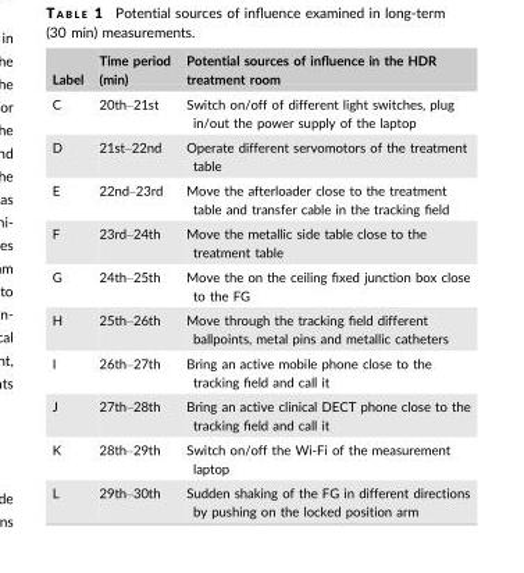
<table><thead><tr><td>Label</td><td>Time period (min)</td><td>Potential sources of influence in the HDR treatment room</td></tr></thead><tbody><tr><td>C</td><td>20th–21st</td><td>Switch on/off of different light switches, plug in/out the power supply of the laptop</td></tr><tr><td>D</td><td>21st–22nd</td><td>Operate different servomotors of the treatment table</td></tr><tr><td>E</td><td>22nd–23rd</td><td>Move the afterloader close to the treatment table and transfer cable in the tracking field</td></tr><tr><td>F</td><td>23rd–24th</td><td>Move the metallic side table close to the treatment table</td></tr><tr><td>G</td><td>24th–25th</td><td>Move the on the ceiling fixed junction box close to the FG</td></tr><tr><td>H</td><td>25th–26th</td><td>Move through the tracking field different ballpoints, metal pins and metallic catheters</td></tr><tr><td>I</td><td>26th–27th</td><td>Bring an active mobile phone close to the tracking field and call it</td></tr><tr><td>J</td><td>27th–28th</td><td>Bring an active clinical DECT phone close to the tracking field and call it</td></tr><tr><td>K</td><td>28th–29th</td><td>Switch on/off the Wi-Fi of the measurement laptop</td></tr><tr><td>L</td><td>29th–30th</td><td>Sudden shaking of the FG in different directions by pushing on the locked position arm</td></tr></tbody></table>